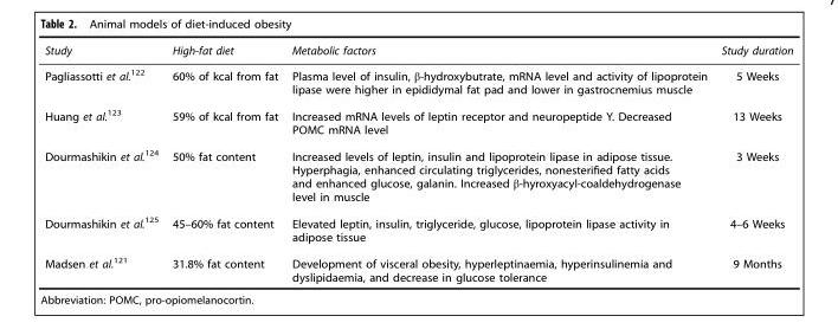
<table><thead><tr><td>Study</td><td>High-fat diet</td><td>Metabolic factors</td><td>Study duration</td></tr></thead><tbody><tr><td>Pagliassotti et al.<sup>122</sup></td><td>60% of kcal from fat</td><td>Plasma level of insulin, β-hydroxybutrate, mRNA level and activity of lipoprotein lipase were higher in epididymal fat pad and lower in gastrocnemius muscle</td><td>5 Weeks</td></tr><tr><td>Huang et al.<sup>123</sup></td><td>59% of kcal from fat</td><td>Increased mRNA levels of leptin receptor and neuropeptide Y. Decreased POMC mRNA level</td><td>13 Weeks</td></tr><tr><td>Dourmashikin et al.<sup>124</sup></td><td>50% fat content</td><td>Increased levels of leptin, insulin and lipoprotein lipase in adipose tissue. Hyperphagia, enhanced circulating triglycerides, nonesterified fatty acids and enhanced glucose, galanin. Increased β-hyroxyacyl-coaldehydrogenase level in muscle</td><td>3 Weeks</td></tr><tr><td>Dourmashikin et al.<sup>125</sup></td><td>45–60% fat content</td><td>Elevated leptin, insulin, triglyceride, glucose, lipoprotein lipase activity in adipose tissue</td><td>4–6 Weeks</td></tr><tr><td>Madsen et al.<sup>121</sup></td><td>31.8% fat content</td><td>Development of visceral obesity, hyperleptinaemia, hyperinsulinemia and dyslipidaemia, and decrease in glucose tolerance</td><td>9 Months</td></tr></tbody></table>